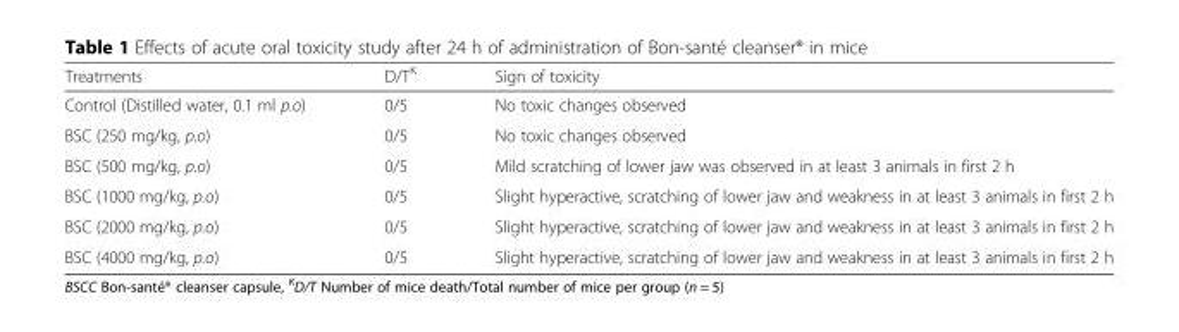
<table><thead><tr><td>Treatments</td><td>D/T<sup>K</sup></td><td>Sign of toxicity</td></tr></thead><tbody><tr><td>Control (Distilled water, 0.1 ml p.o)</td><td>0/5</td><td>No toxic changes observed</td></tr><tr><td>BSC (250 mg/kg, p.o)</td><td>0/5</td><td>No toxic changes observed</td></tr><tr><td>BSC (500 mg/kg, p.o)</td><td>0/5</td><td>Mild scratching of lower jaw was observed in at least 3 animals in first 2 h</td></tr><tr><td>BSC (1000 mg/kg, p.o)</td><td>0/5</td><td>Slight hyperactive, scratching of lower jaw and weakness in at least 3 animals in first 2 h</td></tr><tr><td>BSC (2000 mg/kg, p.o)</td><td>0/5</td><td>Slight hyperactive, scratching of lower jaw and weakness in at least 3 animals in first 2 h</td></tr><tr><td>BSC (4000 mg/kg, p.o)</td><td>0/5</td><td>Slight hyperactive, scratching of lower jaw and weakness in at least 3 animals in first 2 h</td></tr></tbody></table>